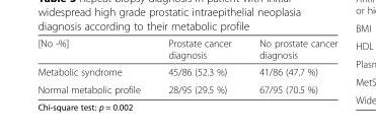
<table><thead><tr><td>[No -%]</td><td>Prostate cancer diagnosis</td><td>No prostate cancer diagnosis</td></tr></thead><tbody><tr><td>Metabolic syndrome</td><td>45/86 (52.3 %)</td><td>41/86 (47.7 %)</td></tr><tr><td>Normal metabolic profile</td><td>28/95 (29.5 %)</td><td>67/95 (70.5 %)</td></tr></tbody></table>